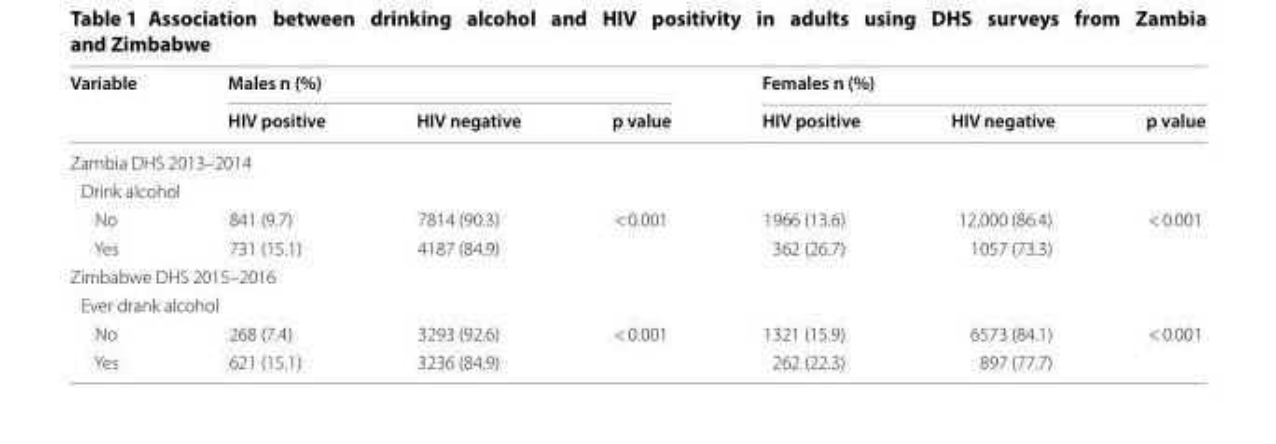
<table><thead><tr><td rowspan="2">Variable</td><td colspan="3">Males n (%)</td><td colspan="3">Females n (%)</td></tr><tr><td>HIV positive</td><td>HIV negative</td><td>p value</td><td>HIV positive</td><td>HIV negative</td><td>p value</td></tr></thead><tbody><tr><td colspan="7">Zambia DHS 2013–2014</td></tr><tr><td colspan="7">Drink alcohol</td></tr><tr><td>No</td><td>841 (9.7)</td><td>7814 (90.3)</td><td rowspan="2">&lt; 0.001</td><td>1966 (13.6)</td><td>12,000 (86.4)</td><td rowspan="2">&lt; 0.001</td></tr><tr><td>Yes</td><td>731 (15.1)</td><td>4187 (84.9)</td><td>362 (26.7)</td><td>1057 (73.3)</td></tr><tr><td colspan="7">Zimbabwe DHS 2015–2016</td></tr><tr><td colspan="7">Ever drank alcohol</td></tr><tr><td>No</td><td>268 (7.4)</td><td>3293 (92.6)</td><td rowspan="2">&lt; 0.001</td><td>1321 (15.9)</td><td>6573 (84.1)</td><td rowspan="2">&lt; 0.001</td></tr><tr><td>Yes</td><td>621 (15.1)</td><td>3236 (84.9)</td><td>262 (22.3)</td><td>897 (77.7)</td></tr></tbody></table>